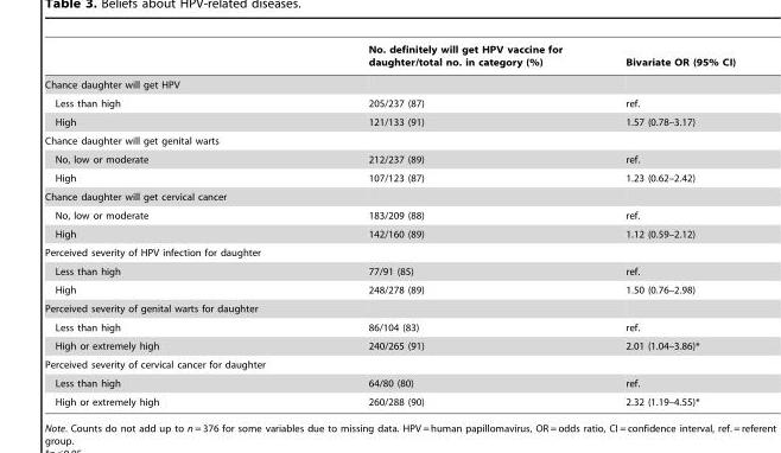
<table><thead><tr><td></td><td>No. definitely will get HPV vaccine for daughter/total no. in category (%)</td><td>Bivariate OR (95% CI)</td></tr></thead><tbody><tr><td colspan="3">Chance daughter will get HPV</td></tr><tr><td>Less than high</td><td>205/237 (87)</td><td>ref.</td></tr><tr><td>High</td><td>121/133 (91)</td><td>1.57 (0.78–3.17)</td></tr><tr><td colspan="3">Chance daughter will get genital warts</td></tr><tr><td>No, low or moderate</td><td>212/237 (89)</td><td>ref.</td></tr><tr><td>High</td><td>107/123 (87)</td><td>1.23 (0.62–2.42)</td></tr><tr><td colspan="3">Chance daughter will get cervical cancer</td></tr><tr><td>No, low or moderate</td><td>183/209 (88)</td><td>ref.</td></tr><tr><td>High</td><td>142/160 (89)</td><td>1.12 (0.59–2.12)</td></tr><tr><td colspan="3">Perceived severity of HPV infection for daughter</td></tr><tr><td>Less than high</td><td>77/91 (85)</td><td>ref.</td></tr><tr><td>High</td><td>248/278 (89)</td><td>1.50 (0.76–2.98)</td></tr><tr><td colspan="3">Perceived severity of genital warts for daughter</td></tr><tr><td>Less than high</td><td>86/104 (83)</td><td>ref.</td></tr><tr><td>High or extremely high</td><td>240/265 (91)</td><td>2.01 (1.04–3.86)*</td></tr><tr><td colspan="3">Perceived severity of cervical cancer for daughter</td></tr><tr><td>Less than high</td><td>64/80 (80)</td><td>ref.</td></tr><tr><td>High or extremely high</td><td>260/288 (90)</td><td>2.32 (1.19–4.55)*</td></tr></tbody></table>